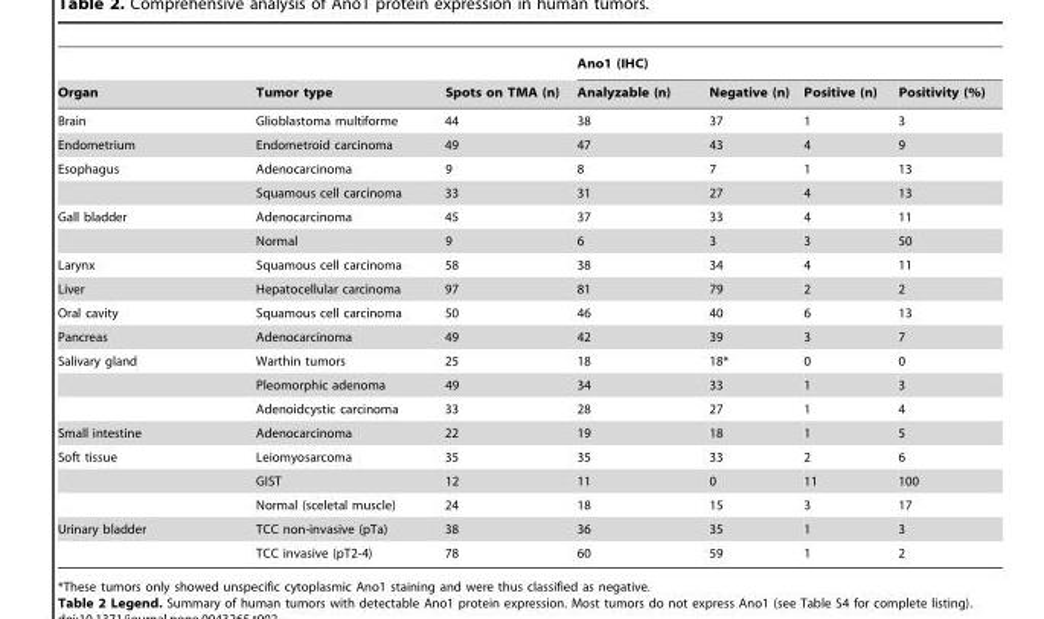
<table><thead><tr><td rowspan="2">Organ</td><td rowspan="2">Tumor type</td><td rowspan="2">Spots on TMA (n)</td><td colspan="4">Ano1 (IHC)</td></tr><tr><td>Analyzable (n)</td><td>Negative (n)</td><td>Positive (n)</td><td>Positivity (%)</td></tr></thead><tbody><tr><td>Brain</td><td>Glioblastoma multiforme</td><td>44</td><td>38</td><td>37</td><td>1</td><td>3</td></tr><tr><td>Endometrium</td><td>Endometroid carcinoma</td><td>49</td><td>47</td><td>43</td><td>4</td><td>9</td></tr><tr><td rowspan="2">Esophagus</td><td>Adenocarcinoma</td><td>9</td><td>8</td><td>7</td><td>1</td><td>13</td></tr><tr><td>Squamous cell carcinoma</td><td>33</td><td>31</td><td>27</td><td>4</td><td>13</td></tr><tr><td rowspan="2">Gall bladder</td><td>Adenocarcinoma</td><td>45</td><td>37</td><td>33</td><td>4</td><td>11</td></tr><tr><td>Normal</td><td>9</td><td>6</td><td>3</td><td>3</td><td>50</td></tr><tr><td>Larynx</td><td>Squamous cell carcinoma</td><td>58</td><td>38</td><td>34</td><td>4</td><td>11</td></tr><tr><td>Liver</td><td>Hepatocellular carcinoma</td><td>97</td><td>81</td><td>79</td><td>2</td><td>2</td></tr><tr><td>Oral cavity</td><td>Squamous cell carcinoma</td><td>50</td><td>46</td><td>40</td><td>6</td><td>13</td></tr><tr><td>Pancreas</td><td>Adenocarcinoma</td><td>49</td><td>42</td><td>39</td><td>3</td><td>7</td></tr><tr><td rowspan="3">Salivary gland</td><td>Warthin tumors</td><td>25</td><td>18</td><td>18*</td><td>0</td><td>0</td></tr><tr><td>Pleomorphic adenoma</td><td>49</td><td>34</td><td>33</td><td>1</td><td>3</td></tr><tr><td>Adenoidcystic carcinoma</td><td>33</td><td>28</td><td>27</td><td>1</td><td>4</td></tr><tr><td>Small intestine</td><td>Adenocarcinoma</td><td>22</td><td>19</td><td>18</td><td>1</td><td>5</td></tr><tr><td rowspan="3">Soft tissue</td><td>Leiomyosarcoma</td><td>35</td><td>35</td><td>33</td><td>2</td><td>6</td></tr><tr><td>GIST</td><td>12</td><td>11</td><td>0</td><td>11</td><td>100</td></tr><tr><td>Normal (sceletal muscle)</td><td>24</td><td>18</td><td>15</td><td>3</td><td>17</td></tr><tr><td rowspan="2">Urinary bladder</td><td>TCC non-invasive (pTa)</td><td>38</td><td>36</td><td>35</td><td>1</td><td>3</td></tr><tr><td>TCC invasive (pT2-4)</td><td>78</td><td>60</td><td>59</td><td>1</td><td>2</td></tr></tbody></table>